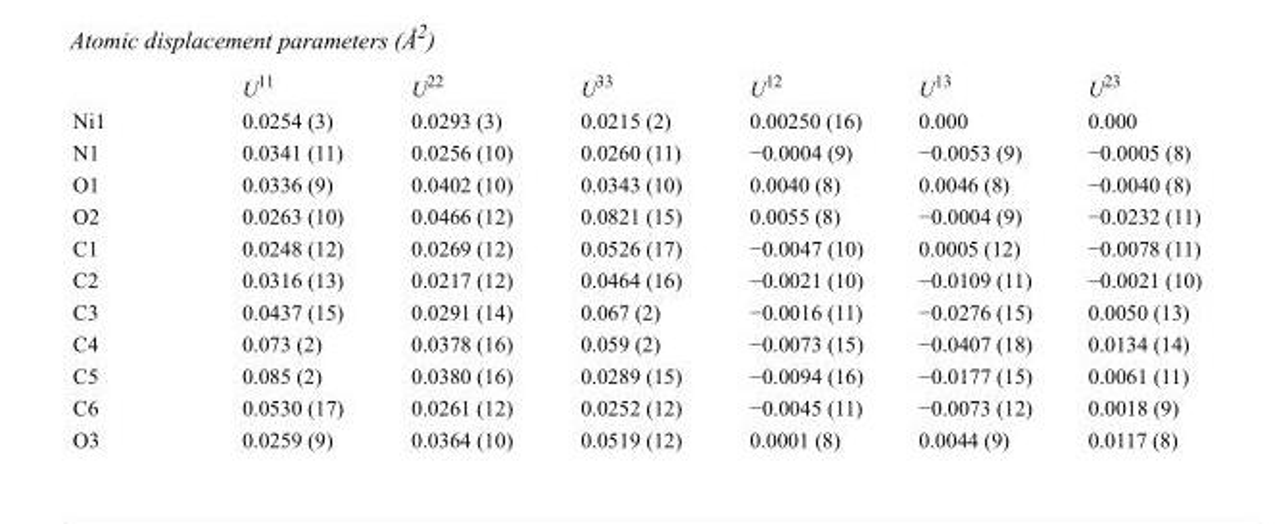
<table><thead><tr><td></td><td>U<sup>11</sup></td><td>U<sup>22</sup></td><td>U<sup>33</sup></td><td>U<sup>12</sup></td><td>U<sup>13</sup></td><td>U<sup>23</sup></td></tr></thead><tbody><tr><td>Ni1</td><td>0.0254 (3)</td><td>0.0293 (3)</td><td>0.0215 (2)</td><td>0.00250 (16)</td><td>0.000</td><td>0.000</td></tr><tr><td>N1</td><td>0.0341 (11)</td><td>0.0256 (10)</td><td>0.0260 (11)</td><td>−0.0004 (9)</td><td>−0.0053 (9)</td><td>−0.0005 (8)</td></tr><tr><td>O1</td><td>0.0336 (9)</td><td>0.0402 (10)</td><td>0.0343 (10)</td><td>0.0040 (8)</td><td>0.0046 (8)</td><td>−0.0040 (8)</td></tr><tr><td>O2</td><td>0.0263 (10)</td><td>0.0466 (12)</td><td>0.0821 (15)</td><td>0.0055 (8)</td><td>−0.0004 (9)</td><td>−0.0232 (11)</td></tr><tr><td>C1</td><td>0.0248 (12)</td><td>0.0269 (12)</td><td>0.0526 (17)</td><td>−0.0047 (10)</td><td>0.0005 (12)</td><td>−0.0078 (11)</td></tr><tr><td>C2</td><td>0.0316 (13)</td><td>0.0217 (12)</td><td>0.0464 (16)</td><td>−0.0021 (10)</td><td>−0.0109 (11)</td><td>−0.0021 (10)</td></tr><tr><td>C3</td><td>0.0437 (15)</td><td>0.0291 (14)</td><td>0.067 (2)</td><td>−0.0016 (11)</td><td>−0.0276 (15)</td><td>0.0050 (13)</td></tr><tr><td>C4</td><td>0.073 (2)</td><td>0.0378 (16)</td><td>0.059 (2)</td><td>−0.0073 (15)</td><td>−0.0407 (18)</td><td>0.0134 (14)</td></tr><tr><td>C5</td><td>0.085 (2)</td><td>0.0380 (16)</td><td>0.0289 (15)</td><td>−0.0094 (16)</td><td>−0.0177 (15)</td><td>0.0061 (11)</td></tr><tr><td>C6</td><td>0.0530 (17)</td><td>0.0261 (12)</td><td>0.0252 (12)</td><td>−0.0045 (11)</td><td>−0.0073 (12)</td><td>0.0018 (9)</td></tr><tr><td>O3</td><td>0.0259 (9)</td><td>0.0364 (10)</td><td>0.0519 (12)</td><td>0.0001 (8)</td><td>0.0044 (9)</td><td>0.0117 (8)</td></tr></tbody></table>